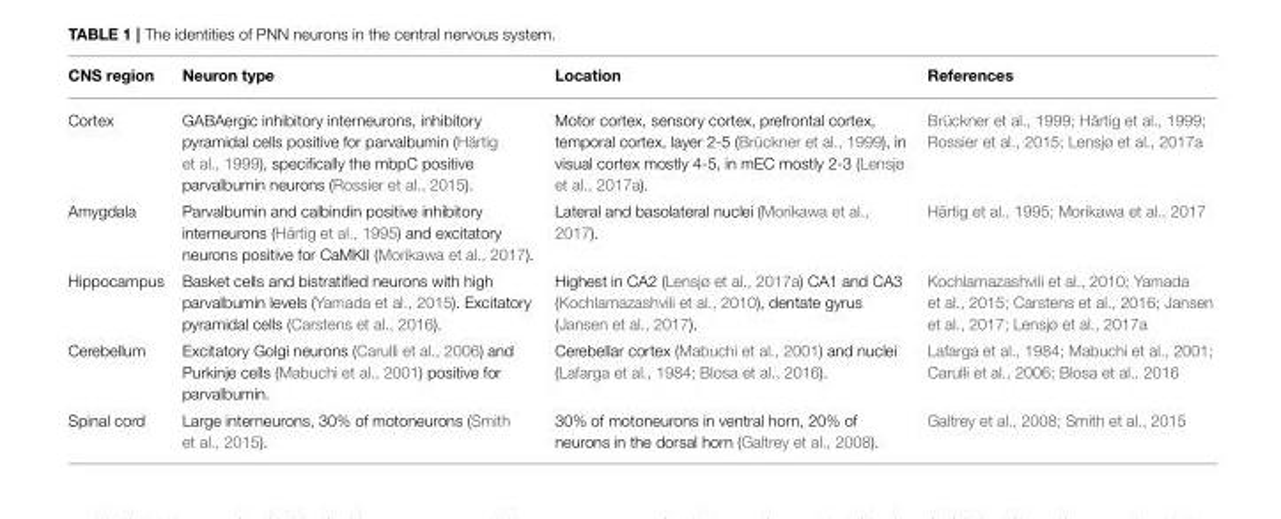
<table><thead><tr><td>CNS region</td><td>Neuron type</td><td>Location</td><td>References</td></tr></thead><tbody><tr><td>Cortex</td><td>GABAergic inhibitory interneurons, inhibitory pyramidal cells positive for parvalbumin (Härtig et al., 1999), specifically the mbpC positive parvalbumin neurons (Rossier et al., 2015).</td><td>Motor cortex, sensory cortex, prefrontal cortex, temporal cortex, layer 2-5 (Brückner et al., 1999), in visual cortex mostly 4-5, in mEC mostly 2-3 (Lensjø et al., 2017a).</td><td>Brückner et al., 1999; Härtig et al., 1999; Rossier et al., 2015; Lensjø et al., 2017a</td></tr><tr><td>Amygdala</td><td>Parvalbumin and calbindin positive inhibitory interneurons (Härtig et al., 1995) and excitatory neurons positive for CaMKII (Morikawa et al., 2017).</td><td>Lateral and basolateral nuclei (Morikawa et al., 2017).</td><td>Härtig et al., 1995; Morikawa et al., 2017</td></tr><tr><td>Hippocampus</td><td>Basket cells and bistratified neurons with high parvalbumin levels (Yamada et al., 2015). Excitatory pyramidal cells (Carstens et al., 2016).</td><td>Highest in CA2 (Lensjø et al., 2017a) CA1 and CA3 (Kochlamazashvili et al., 2010), dentate gyrus (Jansen et al., 2017).</td><td>Kochlamazashvili et al., 2010; Yamada et al., 2015; Carstens et al., 2016; Jansen et al., 2017; Lensjø et al., 2017a</td></tr><tr><td>Cerebellum</td><td>Excitatory Golgi neurons (Carulli et al., 2006) and Purkinje cells (Mabuchi et al., 2001) positive for parvalbumin.</td><td>Cerebellar cortex (Mabuchi et al., 2001) and nuclei (Lafarga et al., 1984; Blosa et al., 2016).</td><td>Lafarga et al., 1984; Mabuchi et al., 2001; Carulli et al., 2006; Blosa et al., 2016</td></tr><tr><td>Spinal cord</td><td>Large interneurons, 30% of motoneurons (Smith et al., 2015).</td><td>30% of motoneurons in ventral horn, 20% of neurons in the dorsal horn (Galtrey et al., 2008).</td><td>Galtrey et al., 2008; Smith et al., 2015</td></tr></tbody></table>